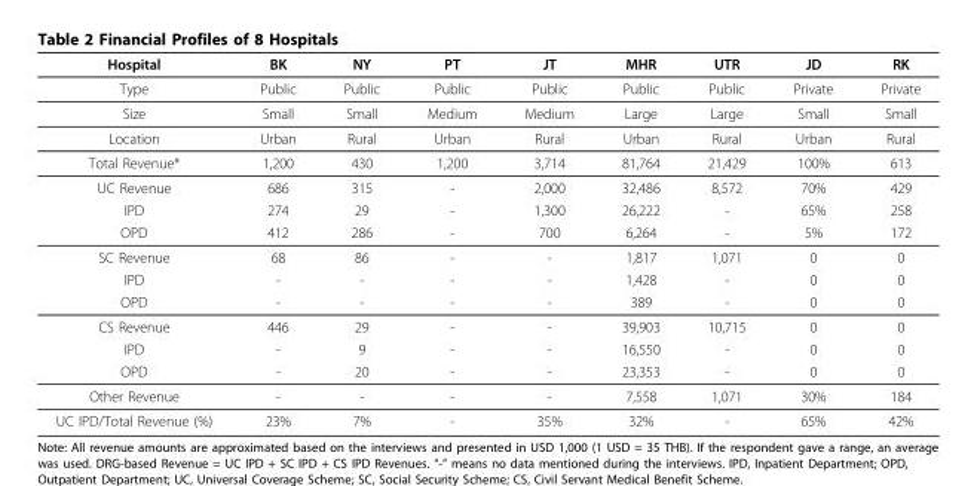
<table><thead><tr><td>Hospital</td><td>BK</td><td>NY</td><td>PT</td><td>JT</td><td>MHR</td><td>UTR</td><td>JD</td><td>RK</td></tr></thead><tbody><tr><td>Type</td><td>Public</td><td>Public</td><td>Public</td><td>Public</td><td>Public</td><td>Public</td><td>Private</td><td>Private</td></tr><tr><td>Size</td><td>Small</td><td>Small</td><td>Medium</td><td>Medium</td><td>Large</td><td>Large</td><td>Small</td><td>Small</td></tr><tr><td>Location</td><td>Urban</td><td>Rural</td><td>Urban</td><td>Rural</td><td>Urban</td><td>Rural</td><td>Urban</td><td>Rural</td></tr><tr><td>Total Revenue*</td><td>1,200</td><td>430</td><td>1,200</td><td>3,714</td><td>81,764</td><td>21,429</td><td>100%</td><td>613</td></tr><tr><td>UC Revenue</td><td>686</td><td>315</td><td>-</td><td>2,000</td><td>32,486</td><td>8,572</td><td>70%</td><td>429</td></tr><tr><td>IPD</td><td>274</td><td>29</td><td>-</td><td>1,300</td><td>26,222</td><td>-</td><td>65%</td><td>258</td></tr><tr><td>OPD</td><td>412</td><td>286</td><td>-</td><td>700</td><td>6,264</td><td>-</td><td>5%</td><td>172</td></tr><tr><td>SC Revenue</td><td>68</td><td>86</td><td>-</td><td>-</td><td>1,817</td><td>1,071</td><td>0</td><td>0</td></tr><tr><td>IPD</td><td>-</td><td>-</td><td>-</td><td>-</td><td>1,428</td><td>-</td><td>0</td><td>0</td></tr><tr><td>OPD</td><td>-</td><td>-</td><td>-</td><td>-</td><td>389</td><td>-</td><td>0</td><td>0</td></tr><tr><td>CS Revenue</td><td>446</td><td>29</td><td>-</td><td>-</td><td>39,903</td><td>10,715</td><td>0</td><td>0</td></tr><tr><td>IPD</td><td>-</td><td>9</td><td>-</td><td>-</td><td>16,550</td><td>-</td><td>0</td><td>0</td></tr><tr><td>OPD</td><td>-</td><td>20</td><td>-</td><td>-</td><td>23,353</td><td>-</td><td>0</td><td>0</td></tr><tr><td>Other Revenue</td><td>-</td><td>-</td><td>-</td><td>-</td><td>7,558</td><td>1,071</td><td>30%</td><td>184</td></tr><tr><td>UC IPD/Total Revenue (%)</td><td>23%</td><td>7%</td><td>-</td><td>35%</td><td>32%</td><td>-</td><td>65%</td><td>42%</td></tr></tbody></table>